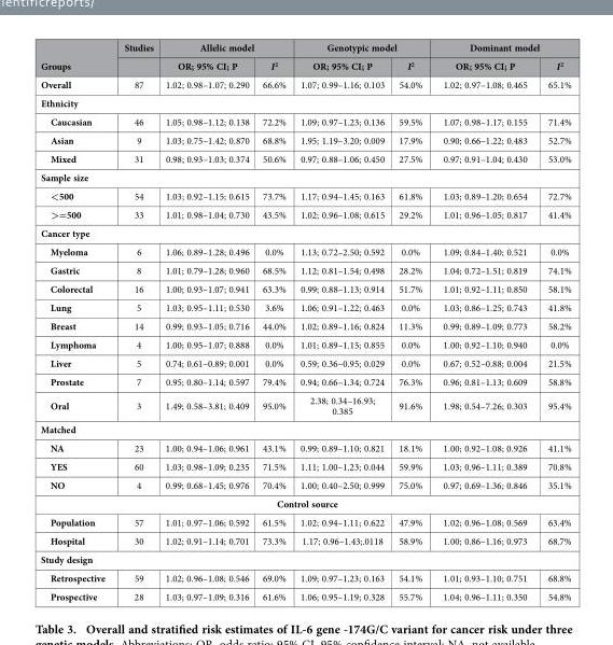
<table><thead><tr><td rowspan="2">Groups</td><td rowspan="2">Studies</td><td colspan="2">Allelic model</td><td colspan="2">Genotypic model</td><td colspan="2">Dominant model</td></tr><tr><td>OR; 95% CI; P</td><td>I<sup>2</sup></td><td>OR; 95% CI; P</td><td>I<sup>2</sup></td><td>OR; 95% CI; P</td><td>I<sup>2</sup></td></tr></thead><tbody><tr><td>Overall</td><td>87</td><td>1.02; 0.98–1.07; 0.290</td><td>66.6%</td><td>1.07; 0.99–1.16; 0.103</td><td>54.0%</td><td>1.02; 0.97–1.08; 0.465</td><td>65.1%</td></tr><tr><td colspan="8">Ethnicity</td></tr><tr><td>Caucasian</td><td>46</td><td>1.05; 0.98–1.12; 0.138</td><td>72.2%</td><td>1.09; 0.97–1.23; 0.136</td><td>59.5%</td><td>1.07; 0.98–1.17; 0.155</td><td>71.4%</td></tr><tr><td>Asian</td><td>9</td><td>1.03; 0.75–1.42; 0.870</td><td>68.8%</td><td>1.95; 1.19–3.20; 0.009</td><td>17.9%</td><td>0.90; 0.66–1.22; 0.483</td><td>52.7%</td></tr><tr><td>Mixed</td><td>31</td><td>0.98; 0.93–1.03; 0.374</td><td>50.6%</td><td>0.97; 0.88–1.06; 0.450</td><td>27.5%</td><td>0.97; 0.91–1.04; 0.430</td><td>53.0%</td></tr><tr><td colspan="8">Sample size</td></tr><tr><td>&lt;500</td><td>54</td><td>1.03; 0.92–1.15; 0.615</td><td>73.7%</td><td>1.17; 0.94–1.45; 0.163</td><td>61.8%</td><td>1.03; 0.89–1.20; 0.654</td><td>72.7%</td></tr><tr><td>&gt;=500</td><td>33</td><td>1.01; 0.98–1.04; 0.730</td><td>43.5%</td><td>1.02; 0.96–1.08; 0.615</td><td>29.2%</td><td>1.01; 0.96–1.05; 0.817</td><td>41.4%</td></tr><tr><td colspan="8">Cancer type</td></tr><tr><td>Myeloma</td><td>6</td><td>1.06; 0.89–1.28; 0.496</td><td>0.0%</td><td>1.13; 0.72–2.50; 0.592</td><td>0.0%</td><td>1.09; 0.84–1.40; 0.521</td><td>0.0%</td></tr><tr><td>Gastric</td><td>8</td><td>1.01; 0.79–1.28; 0.960</td><td>68.5%</td><td>1.12; 0.81–1.54; 0.498</td><td>28.2%</td><td>1.04; 0.72–1.51; 0.819</td><td>74.1%</td></tr><tr><td>Colorectal</td><td>16</td><td>1.00; 0.93–1.07; 0.941</td><td>63.3%</td><td>0.99; 0.88–1.13; 0.914</td><td>51.7%</td><td>1.01; 0.92–1.11; 0.850</td><td>58.1%</td></tr><tr><td>Lung</td><td>5</td><td>1.03; 0.95–1.11; 0.530</td><td>3.6%</td><td>1.06; 0.91–1.22; 0.463</td><td>0.0%</td><td>1.03; 0.86–1.25; 0.743</td><td>41.8%</td></tr><tr><td>Breast</td><td>14</td><td>0.99; 0.93–1.05; 0.716</td><td>44.0%</td><td>1.02; 0.89–1.16; 0.824</td><td>11.3%</td><td>0.99; 0.89–1.09; 0.773</td><td>58.2%</td></tr><tr><td>Lymphoma</td><td>4</td><td>1.00; 0.95–1.07; 0.888</td><td>0.0%</td><td>1.01; 0.89–1.15; 0.855</td><td>0.0%</td><td>1.00; 0.92–1.10; 0.940</td><td>0.0%</td></tr><tr><td>Liver</td><td>5</td><td>0.74; 0.61–0.89; 0.001</td><td>0.0%</td><td>0.59; 0.36–0.95; 0.029</td><td>0.0%</td><td>0.67; 0.52–0.88; 0.004</td><td>21.5%</td></tr><tr><td>Prostate</td><td>7</td><td>0.95; 0.80–1.14; 0.597</td><td>79.4%</td><td>0.94; 0.66–1.34; 0.724</td><td>76.3%</td><td>0.96; 0.81–1.13; 0.609</td><td>58.8%</td></tr><tr><td>Oral</td><td>3</td><td>1.49; 0.58–3.81; 0.409</td><td>95.0%</td><td>2.38; 0.34–16.93; 0.385</td><td>91.6%</td><td>1.98; 0.54–7.26; 0.303</td><td>95.4%</td></tr><tr><td colspan="8">Matched</td></tr><tr><td>NA</td><td>23</td><td>1.00; 0.94–1.06; 0.961</td><td>43.1%</td><td>0.99; 0.89–1.10; 0.821</td><td>18.1%</td><td>1.00; 0.92–1.08; 0.926</td><td>41.1%</td></tr><tr><td>YES</td><td>60</td><td>1.03; 0.98–1.09; 0.235</td><td>71.5%</td><td>1.11; 1.00–1.23; 0.044</td><td>59.9%</td><td>1.03; 0.96–1.11; 0.389</td><td>70.8%</td></tr><tr><td>NO</td><td>4</td><td>0.99; 0.68–1.45; 0.976</td><td>70.4%</td><td>1.00; 0.40–2.50; 0.999</td><td>75.0%</td><td>0.97; 0.69–1.36; 0.846</td><td>35.1%</td></tr><tr><td colspan="8">Control source</td></tr><tr><td>Population</td><td>57</td><td>1.01; 0.97–1.06; 0.592</td><td>61.5%</td><td>1.02; 0.94–1.11; 0.622</td><td>47.9%</td><td>1.02; 0.96–1.08; 0.569</td><td>63.4%</td></tr><tr><td>Hospital</td><td>30</td><td>1.02; 0.91–1.14; 0.701</td><td>73.3%</td><td>1.17; 0.96–1.43;.0118</td><td>58.9%</td><td>1.00; 0.86–1.16; 0.973</td><td>68.7%</td></tr><tr><td colspan="8">Study design</td></tr><tr><td>Retrospective</td><td>59</td><td>1.02; 0.96–1.08; 0.546</td><td>69.0%</td><td>1.09; 0.97–1.23; 0.163</td><td>54.1%</td><td>1.01; 0.93–1.10; 0.751</td><td>68.8%</td></tr><tr><td>Prospective</td><td>28</td><td>1.03; 0.97–1.09; 0.316</td><td>61.6%</td><td>1.06; 0.95–1.19; 0.328</td><td>55.7%</td><td>1.04; 0.96–1.11; 0.350</td><td>54.8%</td></tr></tbody></table>